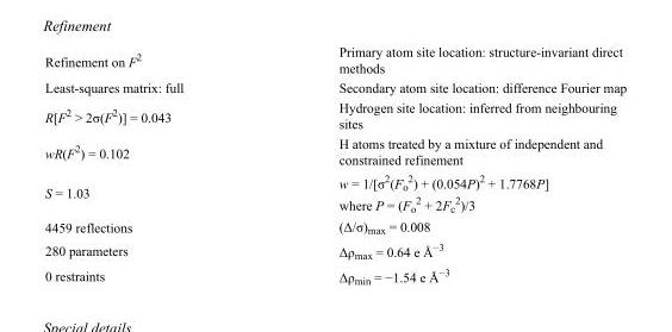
<table><tbody><tr><td>Refinement on F<sup>2</sup></td><td>Primary atom site location: structure-invariant direct methods</td></tr><tr><td>Least-squares matrix: full</td><td>Secondary atom site location: difference Fourier map</td></tr><tr><td>R[F<sup>2</sup> &gt; 2σ(F<sup>2</sup>)] = 0.043</td><td>Hydrogen site location: inferred from neighbouring sites</td></tr><tr><td>wR(F<sup>2</sup>) = 0.102</td><td>H atoms treated by a mixture of independent and constrained refinement</td></tr><tr><td>S = 1.03</td><td>w = 1/[σ<sup>2</sup>(F<sub>o</sub> <sup>2</sup>) + (0.054P)<sup>2</sup> + 1.7768P] where P = (F<sub>o</sub> <sup>2</sup> + 2F<sub>c</sub> <sup>2</sup>)/3</td></tr><tr><td>4459 reflections</td><td>(Δ/σ)<sub>max</sub> = 0.008</td></tr><tr><td>280 parameters</td><td>Δρ<sub>max</sub> = 0.64 e Å<sup>−3</sup></td></tr><tr><td>0 restraints</td><td>Δρ<sub>min</sub> = −1.54 e Å<sup>−3</sup></td></tr></tbody></table>